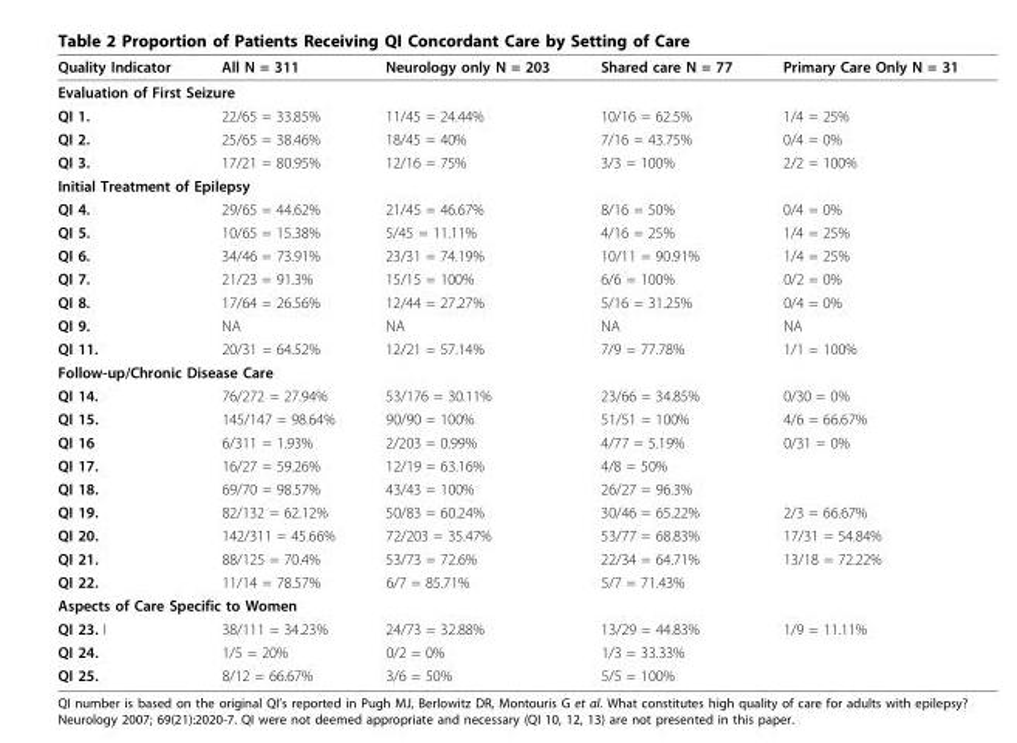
<table><thead><tr><td>Quality Indicator</td><td>All N = 311</td><td>Neurology only N = 203</td><td>Shared care N = 77</td><td>Primary Care Only N = 31</td></tr></thead><tbody><tr><td colspan="5">Evaluation of First Seizure</td></tr><tr><td>QI 1.</td><td>22/65 = 33.85%</td><td>11/45 = 24.44%</td><td>10/16 = 62.5%</td><td>1/4 = 25%</td></tr><tr><td>QI 2.</td><td>25/65 = 38.46%</td><td>18/45 = 40%</td><td>7/16 = 43.75%</td><td>0/4 = 0%</td></tr><tr><td>QI 3.</td><td>17/21 = 80.95%</td><td>12/16 = 75%</td><td>3/3 = 100%</td><td>2/2 = 100%</td></tr><tr><td colspan="5">Initial Treatment of Epilepsy</td></tr><tr><td>QI 4.</td><td>29/65 = 44.62%</td><td>21/45 = 46.67%</td><td>8/16 = 50%</td><td>0/4 = 0%</td></tr><tr><td>QI 5.</td><td>10/65 = 15.38%</td><td>5/45 = 11.11%</td><td>4/16 = 25%</td><td>1/4 = 25%</td></tr><tr><td>QI 6.</td><td>34/46 = 73.91%</td><td>23/31 = 74.19%</td><td>10/11 = 90.91%</td><td>1/4 = 25%</td></tr><tr><td>QI 7.</td><td>21/23 = 91.3%</td><td>15/15 = 100%</td><td>6/6 = 100%</td><td>0/2 = 0%</td></tr><tr><td>QI 8.</td><td>17/64 = 26.56%</td><td>12/44 = 27.27%</td><td>5/16 = 31.25%</td><td>0/4 = 0%</td></tr><tr><td>QI 9.</td><td>NA</td><td>NA</td><td>NA</td><td>NA</td></tr><tr><td>QI 11.</td><td>20/31 = 64.52%</td><td>12/21 = 57.14%</td><td>7/9 = 77.78%</td><td>1/1 = 100%</td></tr><tr><td colspan="5">Follow-up/Chronic Disease Care</td></tr><tr><td>QI 14.</td><td>76/272 = 27.94%</td><td>53/176 = 30.11%</td><td>23/66 = 34.85%</td><td>0/30 = 0%</td></tr><tr><td>QI 15.</td><td>145/147 = 98.64%</td><td>90/90 = 100%</td><td>51/51 = 100%</td><td>4/6 = 66.67%</td></tr><tr><td>QI 16</td><td>6/311 = 1.93%</td><td>2/203 = 0.99%</td><td>4/77 = 5.19%</td><td>0/31 = 0%</td></tr><tr><td>QI 17.</td><td>16/27 = 59.26%</td><td>12/19 = 63.16%</td><td>4/8 = 50%</td><td></td></tr><tr><td>QI 18.</td><td>69/70 = 98.57%</td><td>43/43 = 100%</td><td>26/27 = 96.3%</td><td></td></tr><tr><td>QI 19.</td><td>82/132 = 62.12%</td><td>50/83 = 60.24%</td><td>30/46 = 65.22%</td><td>2/3 = 66.67%</td></tr><tr><td>QI 20.</td><td>142/311 = 45.66%</td><td>72/203 = 35.47%</td><td>53/77 = 68.83%</td><td>17/31 = 54.84%</td></tr><tr><td>QI 21.</td><td>88/125 = 70.4%</td><td>53/73 = 72.6%</td><td>22/34 = 64.71%</td><td>13/18 = 72.22%</td></tr><tr><td>QI 22.</td><td>11/14 = 78.57%</td><td>6/7 = 85.71%</td><td>5/7 = 71.43%</td><td></td></tr><tr><td colspan="5">Aspects of Care Specific to Women</td></tr><tr><td>QI 23. I</td><td>38/111 = 34.23%</td><td>24/73 = 32.88%</td><td>13/29 = 44.83%</td><td>1/9 = 11.11%</td></tr><tr><td>QI 24.</td><td>1/5 = 20%</td><td>0/2 = 0%</td><td>1/3 = 33.33%</td><td></td></tr><tr><td>QI 25.</td><td>8/12 = 66.67%</td><td>3/6 = 50%</td><td>5/5 = 100%</td><td></td></tr></tbody></table>